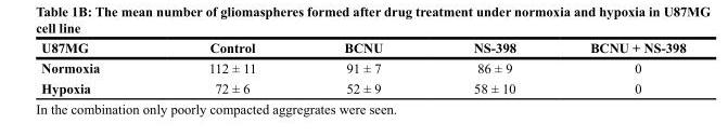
<table><thead><tr><td>U87MG</td><td>Control</td><td>BCNU</td><td>NS-398</td><td>BCNU + NS-398</td></tr></thead><tbody><tr><td>Normoxia</td><td>112 ± 11</td><td>91 ± 7</td><td>86 ± 9</td><td>0</td></tr><tr><td>Hypoxia</td><td>72 ± 6</td><td>52 ± 9</td><td>58 ± 10</td><td>0</td></tr></tbody></table>